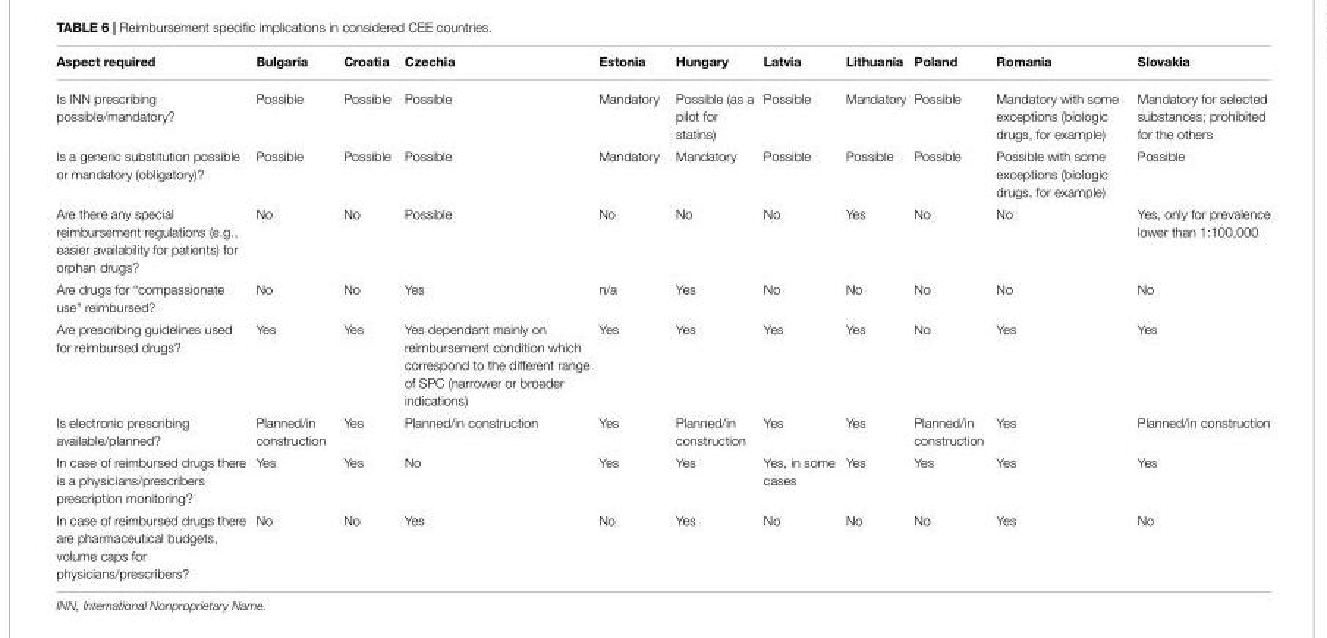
<table><thead><tr><td>Aspect required</td><td>Bulgaria</td><td>Croatia</td><td>Czechia</td><td>Estonia</td><td>Hungary</td><td>Latvia</td><td>Lithuania</td><td>Poland</td><td>Romania</td><td>Slovakia</td></tr></thead><tbody><tr><td>Is INN prescribing possible/mandatory?</td><td>Possible</td><td>Possible</td><td>Possible</td><td>Mandatory</td><td>Possible (as a pilot for statins)</td><td>Possible</td><td>Mandatory</td><td>Possible</td><td>Mandatory with some exceptions (biologic drugs, for example)</td><td>Mandatory for selected substances; prohibited for the others</td></tr><tr><td>Is a generic substitution possible or mandatory (obligatory)?</td><td>Possible</td><td>Possible</td><td>Possible</td><td>Mandatory</td><td>Mandatory</td><td>Possible</td><td>Possible</td><td>Possible</td><td>Possible with some exceptions (biologic drugs, for example)</td><td>Possible</td></tr><tr><td>Are there any special reimbursement regulations (e.g., easier availability for patients) for orphan drugs?</td><td>No</td><td>No</td><td>Possible</td><td>No</td><td>No</td><td>No</td><td>Yes</td><td>No</td><td>No</td><td>Yes, only for prevalence lower than 1:100,000</td></tr><tr><td>Are drugs for “compassionate use” reimbursed?</td><td>No</td><td>No</td><td>Yes</td><td>n/a</td><td>Yes</td><td>No</td><td>No</td><td>No</td><td>No</td><td>No</td></tr><tr><td>Are prescribing guidelines used for reimbursed drugs?</td><td>Yes</td><td>Yes</td><td>Yes dependant mainly on reimbursement condition which correspond to the different range of SPC (narrower or broader indications)</td><td>Yes</td><td>Yes</td><td>Yes</td><td>Yes</td><td>No</td><td>Yes</td><td>Yes</td></tr><tr><td>Is electronic prescribing available/planned?</td><td>Planned/in construction</td><td>Yes</td><td>Planned/in construction</td><td>Yes</td><td>Planned/in construction</td><td>Yes</td><td>Yes</td><td>Planned/in construction</td><td>Yes</td><td>Planned/in construction</td></tr><tr><td>In case of reimbursed drugs there is a physicians/prescribers prescription monitoring?</td><td>Yes</td><td>Yes</td><td>No</td><td>Yes</td><td>Yes</td><td>Yes, in some cases</td><td>Yes</td><td>Yes</td><td>Yes</td><td>Yes</td></tr><tr><td>In case of reimbursed drugs there are pharmaceutical budgets, volume caps for physicians/prescribers?</td><td>No</td><td>No</td><td>Yes</td><td>No</td><td>Yes</td><td>No</td><td>No</td><td>No</td><td>Yes</td><td>No</td></tr></tbody></table>